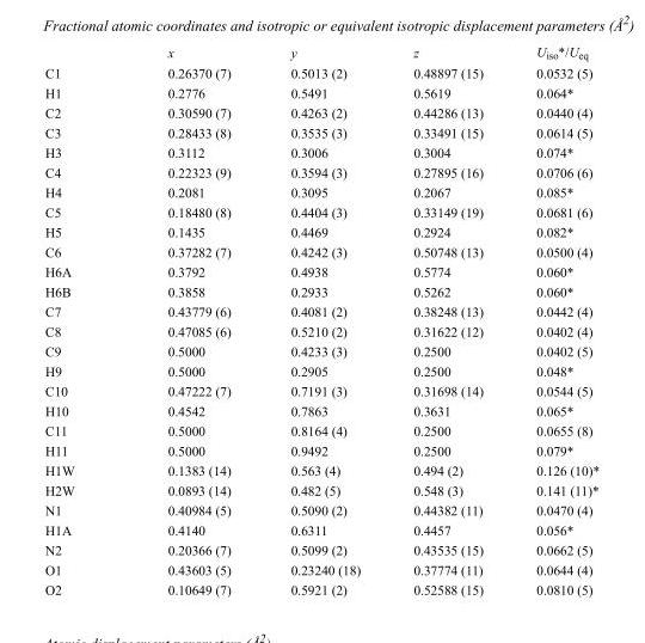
<table><thead><tr><td></td><td>x</td><td>y</td><td>z</td><td>U<sub>iso</sub>*/U<sub>eq</sub></td></tr></thead><tbody><tr><td>C1</td><td>0.26370 (7)</td><td>0.5013 (2)</td><td>0.48897 (15)</td><td>0.0532 (5)</td></tr><tr><td>H1</td><td>0.2776</td><td>0.5491</td><td>0.5619</td><td>0.064*</td></tr><tr><td>C2</td><td>0.30590 (7)</td><td>0.4263 (2)</td><td>0.44286 (13)</td><td>0.0440 (4)</td></tr><tr><td>C3</td><td>0.28433 (8)</td><td>0.3535 (3)</td><td>0.33491 (15)</td><td>0.0614 (5)</td></tr><tr><td>H3</td><td>0.3112</td><td>0.3006</td><td>0.3004</td><td>0.074*</td></tr><tr><td>C4</td><td>0.22323 (9)</td><td>0.3594 (3)</td><td>0.27895 (16)</td><td>0.0706 (6)</td></tr><tr><td>H4</td><td>0.2081</td><td>0.3095</td><td>0.2067</td><td>0.085*</td></tr><tr><td>C5</td><td>0.18480 (8)</td><td>0.4404 (3)</td><td>0.33149 (19)</td><td>0.0681 (6)</td></tr><tr><td>H5</td><td>0.1435</td><td>0.4469</td><td>0.2924</td><td>0.082*</td></tr><tr><td>C6</td><td>0.37282 (7)</td><td>0.4242 (3)</td><td>0.50748 (13)</td><td>0.0500 (4)</td></tr><tr><td>H6A</td><td>0.3792</td><td>0.4938</td><td>0.5774</td><td>0.060*</td></tr><tr><td>H6B</td><td>0.3858</td><td>0.2933</td><td>0.5262</td><td>0.060*</td></tr><tr><td>C7</td><td>0.43779 (6)</td><td>0.4081 (2)</td><td>0.38248 (13)</td><td>0.0442 (4)</td></tr><tr><td>C8</td><td>0.47085 (6)</td><td>0.5210 (2)</td><td>0.31622 (12)</td><td>0.0402 (4)</td></tr><tr><td>C9</td><td>0.5000</td><td>0.4233 (3)</td><td>0.2500</td><td>0.0402 (5)</td></tr><tr><td>H9</td><td>0.5000</td><td>0.2905</td><td>0.2500</td><td>0.048*</td></tr><tr><td>C10</td><td>0.47222 (7)</td><td>0.7191 (3)</td><td>0.31698 (14)</td><td>0.0544 (5)</td></tr><tr><td>H10</td><td>0.4542</td><td>0.7863</td><td>0.3631</td><td>0.065*</td></tr><tr><td>C11</td><td>0.5000</td><td>0.8164 (4)</td><td>0.2500</td><td>0.0655 (8)</td></tr><tr><td>H11</td><td>0.5000</td><td>0.9492</td><td>0.2500</td><td>0.079*</td></tr><tr><td>H1W</td><td>0.1383 (14)</td><td>0.563 (4)</td><td>0.494 (2)</td><td>0.126 (10)*</td></tr><tr><td>H2W</td><td>0.0893 (14)</td><td>0.482 (5)</td><td>0.548 (3)</td><td>0.141 (11)*</td></tr><tr><td>N1</td><td>0.40984 (5)</td><td>0.5090 (2)</td><td>0.44382 (11)</td><td>0.0470 (4)</td></tr><tr><td>H1A</td><td>0.4140</td><td>0.6311</td><td>0.4457</td><td>0.056*</td></tr><tr><td>N2</td><td>0.20366 (7)</td><td>0.5099 (2)</td><td>0.43535 (15)</td><td>0.0662 (5)</td></tr><tr><td>O1</td><td>0.43603 (5)</td><td>0.23240 (18)</td><td>0.37774 (11)</td><td>0.0644 (4)</td></tr><tr><td>O2</td><td>0.10649 (7)</td><td>0.5921 (2)</td><td>0.52588 (15)</td><td>0.0810 (5)</td></tr></tbody></table>